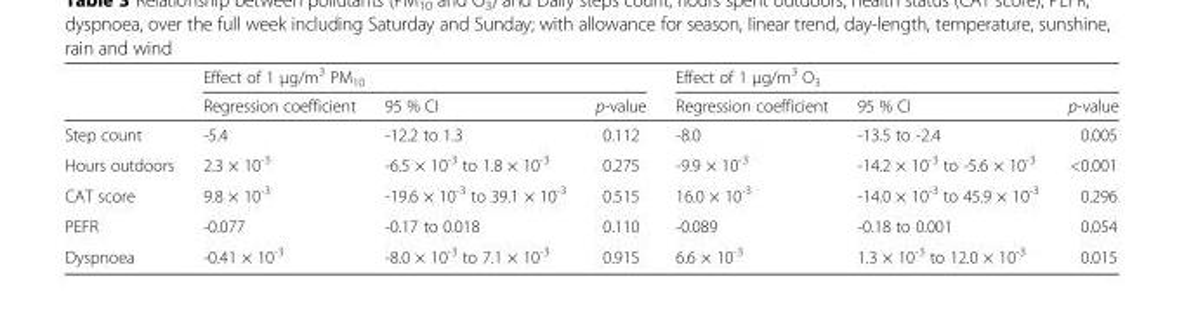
<table><thead><tr><td rowspan="2"></td><td colspan="3">Effect of 1 μg/m<sup>3</sup> PM<sub>10</sub></td><td colspan="3">Effect of 1 μg/m<sup>3</sup> O<sub>3</sub></td></tr><tr><td>Regression coefficient</td><td>95 % CI</td><td>p-value</td><td>Regression coefficient</td><td>95 % CI</td><td>p-value</td></tr></thead><tbody><tr><td>Step count</td><td>-5.4</td><td>-12.2 to 1.3</td><td>0.112</td><td>-8.0</td><td>-13.5 to -2.4</td><td>0.005</td></tr><tr><td>Hours outdoors</td><td>2.3 × 10<sup>-3</sup></td><td>-6.5 × 10<sup>-3</sup> to 1.8 × 10<sup>-3</sup></td><td>0.275</td><td>-9.9 × 10<sup>-3</sup></td><td>-14.2 × 10<sup>-3</sup> to -5.6 × 10<sup>-3</sup></td><td>&lt;0.001</td></tr><tr><td>CAT score</td><td>9.8 × 10<sup>-3</sup></td><td>-19.6 × 10<sup>-3</sup> to 39.1 × 10<sup>-3</sup></td><td>0.515</td><td>16.0 × 10<sup>-3</sup></td><td>-14.0 × 10<sup>-3</sup> to 45.9 × 10<sup>-3</sup></td><td>0.296</td></tr><tr><td>PEFR</td><td>-0.077</td><td>-0.17 to 0.018</td><td>0.110</td><td>-0.089</td><td>-0.18 to 0.001</td><td>0.054</td></tr><tr><td>Dyspnoea</td><td>-0.41 × 10<sup>-3</sup></td><td>-8.0 × 10<sup>-3</sup> to 7.1 × 10<sup>-3</sup></td><td>0.915</td><td>6.6 × 10<sup>-3</sup></td><td>1.3 × 10<sup>-3</sup> to 12.0 × 10<sup>-3</sup></td><td>0.015</td></tr></tbody></table>